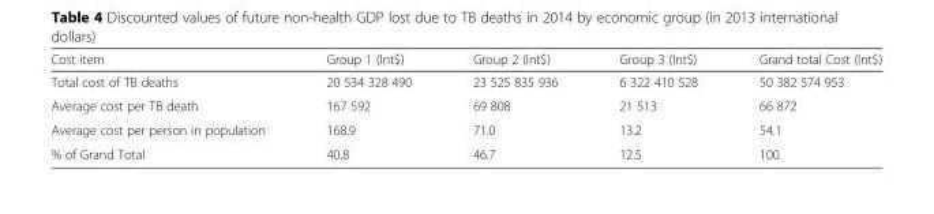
<table><thead><tr><td>Cost item</td><td>Group 1 (Int$)</td><td>Group 2 (Int$)</td><td>Group 3 (Int$)</td><td>Grand total Cost (Int$)</td></tr></thead><tbody><tr><td>Total cost of TB deaths</td><td>20 534 328 490</td><td>23 525 835 936</td><td>6 322 410 528</td><td>50 382 574 953</td></tr><tr><td>Average cost per TB death</td><td>167 592</td><td>69 808</td><td>21 513</td><td>66 872</td></tr><tr><td>Average cost per person in population</td><td>168.9</td><td>71.0</td><td>13.2</td><td>54.1</td></tr><tr><td>% of Grand Total</td><td>40.8</td><td>46.7</td><td>12.5</td><td>100</td></tr></tbody></table>